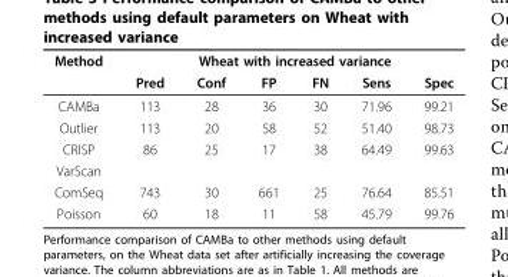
<table><thead><tr><td rowspan="2">Method</td><td colspan="6">Wheat with increased variance</td></tr><tr><td>Pred</td><td>Conf</td><td>FP</td><td>FN</td><td>Sens</td><td>Spec</td></tr></thead><tbody><tr><td>CAMBa</td><td>113</td><td>28</td><td>36</td><td>30</td><td>71.96</td><td>99.21</td></tr><tr><td>Outlier</td><td>113</td><td>20</td><td>58</td><td>52</td><td>51.40</td><td>98.73</td></tr><tr><td>CRISP</td><td>86</td><td>25</td><td>17</td><td>38</td><td>64.49</td><td>99.63</td></tr><tr><td colspan="7">VarScan</td></tr><tr><td>ComSeq</td><td>743</td><td>30</td><td>661</td><td>25</td><td>76.64</td><td>85.51</td></tr><tr><td>Poisson</td><td>60</td><td>18</td><td>11</td><td>58</td><td>45.79</td><td>99.76</td></tr></tbody></table>